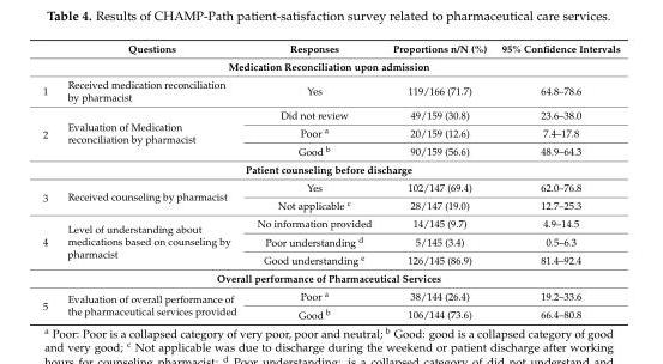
<table><thead><tr><td></td><td>Questions</td><td>Responses</td><td>Proportions n/N (%)</td><td>95% Confidence Intervals</td></tr></thead><tbody><tr><td colspan="5">Medication Reconciliation upon admission</td></tr><tr><td>1</td><td>Received medication reconciliation by pharmacist</td><td>Yes</td><td>119/166 (71.7)</td><td>64.8–78.6</td></tr><tr><td rowspan="3">2</td><td rowspan="3">Evaluation of Medication reconciliation by pharmacist</td><td>Did not review</td><td>49/159 (30.8)</td><td>23.6–38.0</td></tr><tr><td>Poor <sup>a</sup></td><td>20/159 (12.6)</td><td>7.4–17.8</td></tr><tr><td>Good <sup>b</sup></td><td>90/159 (56.6)</td><td>48.9–64.3</td></tr><tr><td colspan="5">Patient counseling before discharge</td></tr><tr><td rowspan="2">3</td><td rowspan="2">Received counseling by pharmacist</td><td>Yes</td><td>102/147 (69.4)</td><td>62.0–76.8</td></tr><tr><td>Not applicable <sup>c</sup></td><td>28/147 (19.0)</td><td>12.7–25.3</td></tr><tr><td rowspan="3">4</td><td rowspan="3">Level of understanding about medications based on counseling by pharmacist</td><td>No information provided</td><td>14/145 (9.7)</td><td>4.9–14.5</td></tr><tr><td>Poor understanding <sup>d</sup></td><td>5/145 (3.4)</td><td>0.5–6.3</td></tr><tr><td>Good understanding <sup>e</sup></td><td>126/145 (86.9)</td><td>81.4–92.4</td></tr><tr><td colspan="5">Overall performance of Pharmaceutical Services</td></tr><tr><td rowspan="2">5</td><td rowspan="2">Evaluation of overall performance of the pharmaceutical services provided</td><td>Poor <sup>a</sup></td><td>38/144 (26.4)</td><td>19.2–33.6</td></tr><tr><td>Good <sup>b</sup></td><td>106/144 (73.6)</td><td>66.4–80.8</td></tr></tbody></table>